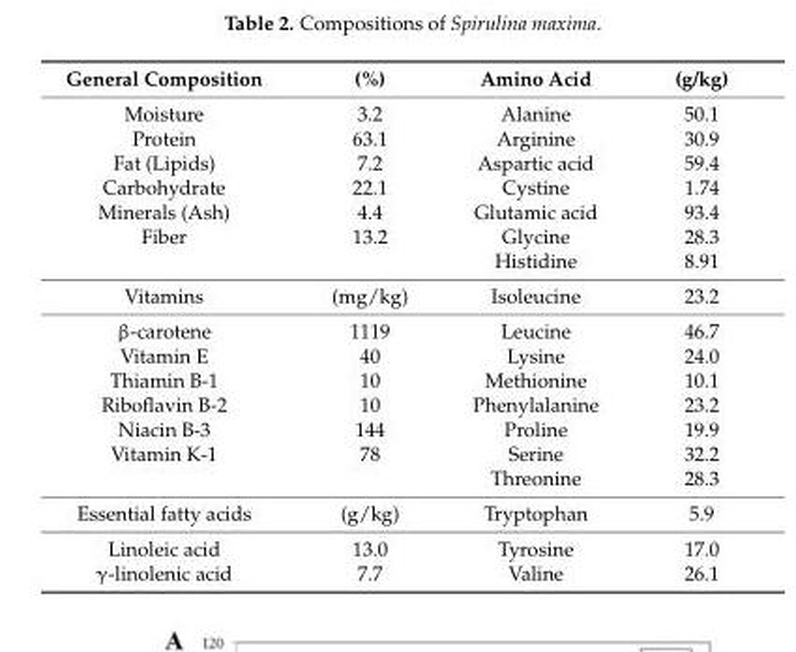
<table><thead><tr><td>General Composition</td><td>(%)</td><td>Amino Acid</td><td>(g/kg)</td></tr></thead><tbody><tr><td>Moisture</td><td>3.2</td><td>Alanine</td><td>50.1</td></tr><tr><td>Protein</td><td>63.1</td><td>Arginine</td><td>30.9</td></tr><tr><td>Fat (Lipids)</td><td>7.2</td><td>Aspartic acid</td><td>59.4</td></tr><tr><td>Carbohydrate</td><td>22.1</td><td>Cystine</td><td>1.74</td></tr><tr><td>Minerals (Ash)</td><td>4.4</td><td>Glutamic acid</td><td>93.4</td></tr><tr><td rowspan="2">Fiber</td><td>13.2</td><td>Glycine</td><td>28.3</td></tr><tr><td></td><td>Histidine</td><td>8.91</td></tr><tr><td>Vitamins</td><td>(mg/kg)</td><td>Isoleucine</td><td>23.2</td></tr><tr><td>β-carotene</td><td>1119</td><td>Leucine</td><td>46.7</td></tr><tr><td>Vitamin E</td><td>40</td><td>Lysine</td><td>24.0</td></tr><tr><td>Thiamin B-1</td><td>10</td><td>Methionine</td><td>10.1</td></tr><tr><td>Riboflavin B-2</td><td>10</td><td>Phenylalanine</td><td>23.2</td></tr><tr><td>Niacin B-3</td><td>144</td><td>Proline</td><td>19.9</td></tr><tr><td rowspan="2">Vitamin K-1</td><td>78</td><td>Serine</td><td>32.2</td></tr><tr><td></td><td>Threonine</td><td>28.3</td></tr><tr><td>Essential fatty acids</td><td>(g/kg)</td><td>Tryptophan</td><td>5.9</td></tr><tr><td>Linoleic acid</td><td>13.0</td><td>Tyrosine</td><td>17.0</td></tr><tr><td>γ-linolenic acid</td><td>7.7</td><td>Valine</td><td>26.1</td></tr></tbody></table>